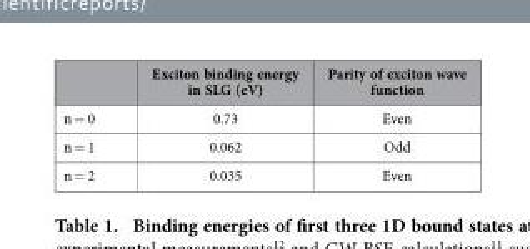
<table><thead><tr><td></td><td>Exciton binding energy in SLG (eV)</td><td>Parity of exciton wave function</td></tr></thead><tbody><tr><td>n = 0</td><td>0.73</td><td>Even</td></tr><tr><td>n = 1</td><td>0.062</td><td>Odd</td></tr><tr><td>n = 2</td><td>0.035</td><td>Even</td></tr></tbody></table>